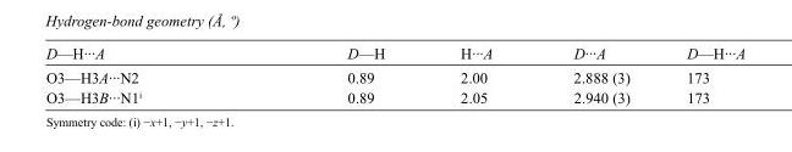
<table><tbody><tr><td>D—H···A</td><td>D—H</td><td>H···A</td><td>D···A</td><td>D—H···A</td></tr><tr><td>O3—H3A···N2</td><td>0.89</td><td>2.00</td><td>2.888 (3)</td><td>173</td></tr><tr><td>O3—H3B···N1<sup>i</sup></td><td>0.89</td><td>2.05</td><td>2.940 (3)</td><td>173</td></tr></tbody></table>